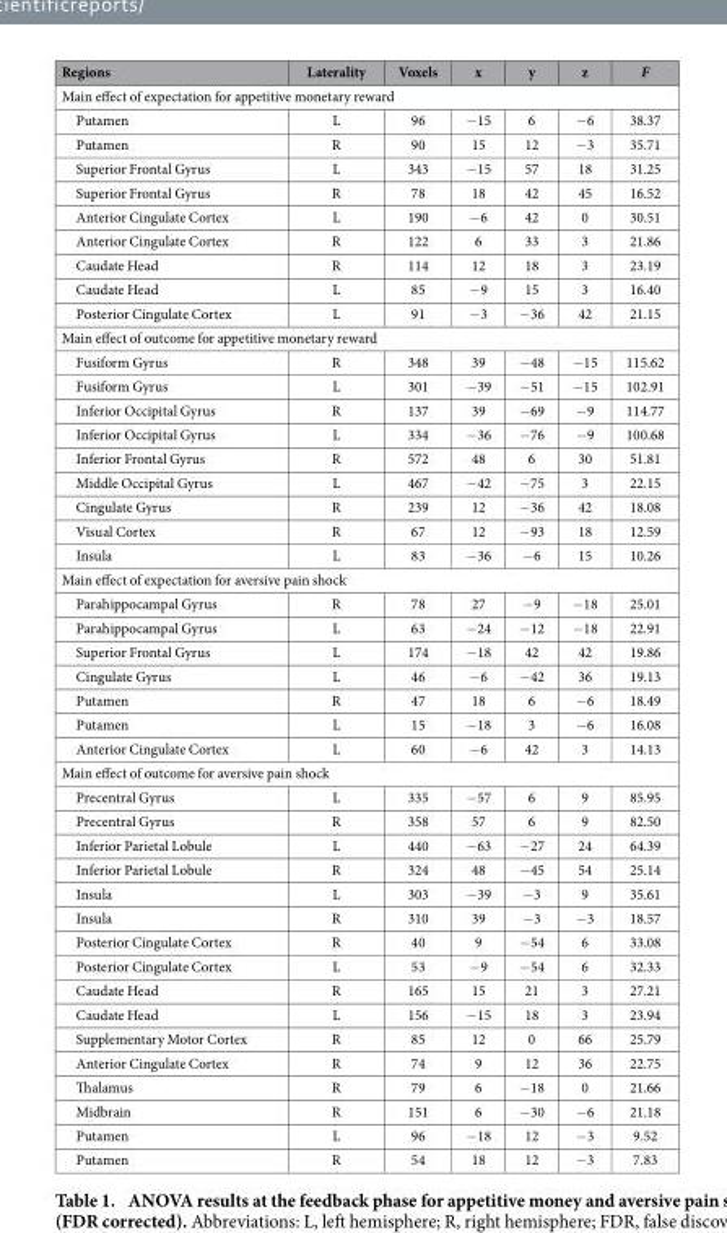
<table><thead><tr><td>Regions</td><td>Laterality</td><td>Voxels</td><td>x</td><td>y</td><td>z</td><td>F</td></tr></thead><tbody><tr><td colspan="7">Main effect of expectation for appetitive monetary reward</td></tr><tr><td>Putamen</td><td>L</td><td>96</td><td>− 15</td><td>6</td><td>− 6</td><td>38.37</td></tr><tr><td>Putamen</td><td>R</td><td>90</td><td>15</td><td>12</td><td>− 3</td><td>35.71</td></tr><tr><td>Superior Frontal Gyrus</td><td>L</td><td>343</td><td>− 15</td><td>57</td><td>18</td><td>31.25</td></tr><tr><td>Superior Frontal Gyrus</td><td>R</td><td>78</td><td>18</td><td>42</td><td>45</td><td>16.52</td></tr><tr><td>Anterior Cingulate Cortex</td><td>L</td><td>190</td><td>− 6</td><td>42</td><td>0</td><td>30.51</td></tr><tr><td>Anterior Cingulate Cortex</td><td>R</td><td>122</td><td>6</td><td>33</td><td>3</td><td>21.86</td></tr><tr><td>Caudate Head</td><td>R</td><td>114</td><td>12</td><td>18</td><td>3</td><td>23.19</td></tr><tr><td>Caudate Head</td><td>L</td><td>85</td><td>− 9</td><td>15</td><td>3</td><td>16.40</td></tr><tr><td>Posterior Cingulate Cortex</td><td>L</td><td>91</td><td>− 3</td><td>− 36</td><td>42</td><td>21.15</td></tr><tr><td colspan="7">Main effect of outcome for appetitive monetary reward</td></tr><tr><td>Fusiform Gyrus</td><td>R</td><td>348</td><td>39</td><td>− 48</td><td>− 15</td><td>115.62</td></tr><tr><td>Fusiform Gyrus</td><td>L</td><td>301</td><td>− 39</td><td>− 51</td><td>− 15</td><td>102.91</td></tr><tr><td>Inferior Occipital Gyrus</td><td>R</td><td>137</td><td>39</td><td>− 69</td><td>− 9</td><td>114.77</td></tr><tr><td>Inferior Occipital Gyrus</td><td>L</td><td>334</td><td>− 36</td><td>− 76</td><td>− 9</td><td>100.68</td></tr><tr><td>Inferior Frontal Gyrus</td><td>R</td><td>572</td><td>48</td><td>6</td><td>30</td><td>51.81</td></tr><tr><td>Middle Occipital Gyrus</td><td>L</td><td>467</td><td>− 42</td><td>− 75</td><td>3</td><td>22.15</td></tr><tr><td>Cingulate Gyrus</td><td>R</td><td>239</td><td>12</td><td>− 36</td><td>42</td><td>18.08</td></tr><tr><td>Visual Cortex</td><td>R</td><td>67</td><td>12</td><td>− 93</td><td>18</td><td>12.59</td></tr><tr><td>Insula</td><td>L</td><td>83</td><td>− 36</td><td>− 6</td><td>15</td><td>10.26</td></tr><tr><td colspan="7">Main effect of expectation for aversive pain shock</td></tr><tr><td>Parahippocampal Gyrus</td><td>R</td><td>78</td><td>27</td><td>− 9</td><td>− 18</td><td>25.01</td></tr><tr><td>Parahippocampal Gyrus</td><td>L</td><td>63</td><td>− 24</td><td>− 12</td><td>− 18</td><td>22.91</td></tr><tr><td>Superior Frontal Gyrus</td><td>L</td><td>174</td><td>− 18</td><td>42</td><td>42</td><td>19.86</td></tr><tr><td>Cingulate Gyrus</td><td>L</td><td>46</td><td>− 6</td><td>− 42</td><td>36</td><td>19.13</td></tr><tr><td>Putamen</td><td>R</td><td>47</td><td>18</td><td>6</td><td>− 6</td><td>18.49</td></tr><tr><td>Putamen</td><td>L</td><td>15</td><td>− 18</td><td>3</td><td>− 6</td><td>16.08</td></tr><tr><td>Anterior Cingulate Cortex</td><td>L</td><td>60</td><td>− 6</td><td>42</td><td>3</td><td>14.13</td></tr><tr><td colspan="7">Main effect of outcome for aversive pain shock</td></tr><tr><td>Precentral Gyrus</td><td>L</td><td>335</td><td>− 57</td><td>6</td><td>9</td><td>85.95</td></tr><tr><td>Precentral Gyrus</td><td>R</td><td>358</td><td>57</td><td>6</td><td>9</td><td>82.50</td></tr><tr><td>Inferior Parietal Lobule</td><td>L</td><td>440</td><td>− 63</td><td>− 27</td><td>24</td><td>64.39</td></tr><tr><td>Inferior Parietal Lobule</td><td>R</td><td>324</td><td>48</td><td>− 45</td><td>54</td><td>25.14</td></tr><tr><td>Insula</td><td>L</td><td>303</td><td>− 39</td><td>− 3</td><td>9</td><td>35.61</td></tr><tr><td>Insula</td><td>R</td><td>310</td><td>39</td><td>− 3</td><td>− 3</td><td>18.57</td></tr><tr><td>Posterior Cingulate Cortex</td><td>R</td><td>40</td><td>9</td><td>− 54</td><td>6</td><td>33.08</td></tr><tr><td>Posterior Cingulate Cortex</td><td>L</td><td>53</td><td>− 9</td><td>− 54</td><td>6</td><td>32.33</td></tr><tr><td>Caudate Head</td><td>R</td><td>165</td><td>15</td><td>21</td><td>3</td><td>27.21</td></tr><tr><td>Caudate Head</td><td>L</td><td>156</td><td>− 15</td><td>18</td><td>3</td><td>23.94</td></tr><tr><td>Supplementary Motor Cortex</td><td>R</td><td>85</td><td>12</td><td>0</td><td>66</td><td>25.79</td></tr><tr><td>Anterior Cingulate Cortex</td><td>R</td><td>74</td><td>9</td><td>12</td><td>36</td><td>22.75</td></tr><tr><td>Thalamus</td><td>R</td><td>79</td><td>6</td><td>− 18</td><td>0</td><td>21.66</td></tr><tr><td>Midbrain</td><td>R</td><td>151</td><td>6</td><td>− 30</td><td>− 6</td><td>21.18</td></tr><tr><td>Putamen</td><td>L</td><td>96</td><td>− 18</td><td>12</td><td>− 3</td><td>9.52</td></tr><tr><td>Putamen</td><td>R</td><td>54</td><td>18</td><td>12</td><td>− 3</td><td>7.83</td></tr></tbody></table>